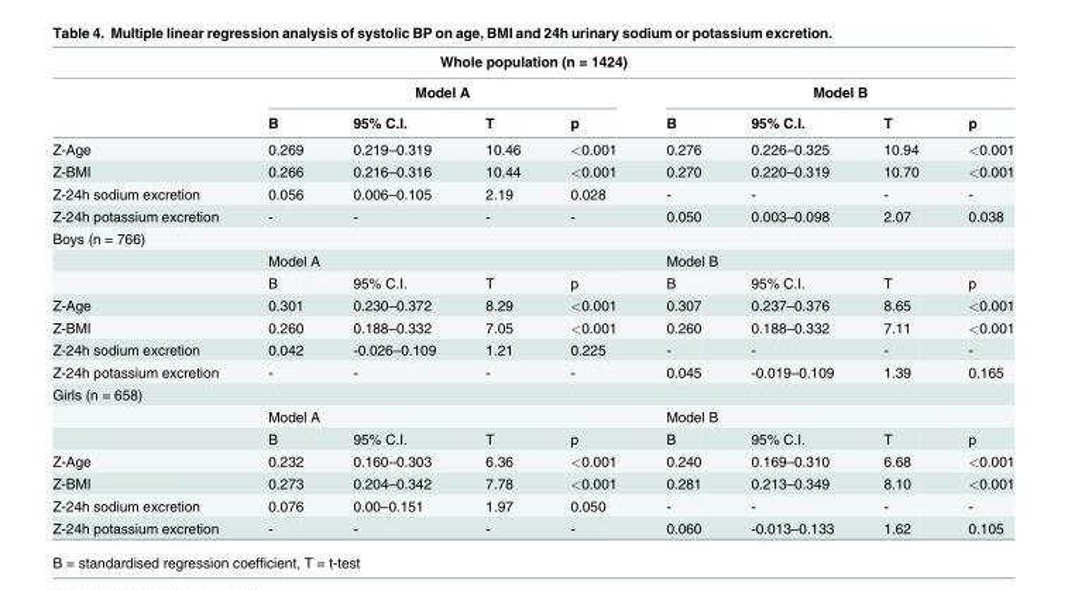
<table><thead><tr><td colspan="9">Whole population (n = 1424)</td></tr><tr><td rowspan="2"></td><td colspan="4">Model A</td><td colspan="4">Model B</td></tr><tr><td>B</td><td>95% C.I.</td><td>T</td><td>p</td><td>B</td><td>95% C.I.</td><td>T</td><td>p</td></tr></thead><tbody><tr><td>Z-Age</td><td>0.269</td><td>0.219–0.319</td><td>10.46</td><td>&lt;0.001</td><td>0.276</td><td>0.226–0.325</td><td>10.94</td><td>&lt;0.001</td></tr><tr><td>Z-BMI</td><td>0.266</td><td>0.216–0.316</td><td>10.44</td><td>&lt;0.001</td><td>0.270</td><td>0.220–0.319</td><td>10.70</td><td>&lt;0.001</td></tr><tr><td>Z-24h sodium excretion</td><td>0.056</td><td>0.006–0.105</td><td>2.19</td><td>0.028</td><td>-</td><td>-</td><td>-</td><td>-</td></tr><tr><td>Z-24h potassium excretion</td><td>-</td><td>-</td><td>-</td><td>-</td><td>0.050</td><td>0.003–0.098</td><td>2.07</td><td>0.038</td></tr><tr><td colspan="9">Boys (n = 766)</td></tr><tr><td></td><td colspan="4">Model A</td><td colspan="4">Model B</td></tr><tr><td></td><td>B</td><td>95% C.I.</td><td>T</td><td>p</td><td>B</td><td>95% C.I.</td><td>T</td><td>p</td></tr><tr><td>Z-Age</td><td>0.301</td><td>0.230–0.372</td><td>8.29</td><td>&lt;0.001</td><td>0.307</td><td>0.237–0.376</td><td>8.65</td><td>&lt;0.001</td></tr><tr><td>Z-BMI</td><td>0.260</td><td>0.188–0.332</td><td>7.05</td><td>&lt;0.001</td><td>0.260</td><td>0.188–0.332</td><td>7.11</td><td>&lt;0.001</td></tr><tr><td>Z-24h sodium excretion</td><td>0.042</td><td>-0.026–0.109</td><td>1.21</td><td>0.225</td><td>-</td><td>-</td><td>-</td><td>-</td></tr><tr><td>Z-24h potassium excretion</td><td>-</td><td>-</td><td>-</td><td>-</td><td>0.045</td><td>-0.019–0.109</td><td>1.39</td><td>0.165</td></tr><tr><td colspan="9">Girls (n = 658)</td></tr><tr><td></td><td colspan="4">Model A</td><td colspan="4">Model B</td></tr><tr><td></td><td>B</td><td>95% C.I.</td><td>T</td><td>p</td><td>B</td><td>95% C.I.</td><td>T</td><td>p</td></tr><tr><td>Z-Age</td><td>0.232</td><td>0.160–0.303</td><td>6.36</td><td>&lt;0.001</td><td>0.240</td><td>0.169–0.310</td><td>6.68</td><td>&lt;0.001</td></tr><tr><td>Z-BMI</td><td>0.273</td><td>0.204–0.342</td><td>7.78</td><td>&lt;0.001</td><td>0.281</td><td>0.213–0.349</td><td>8.10</td><td>&lt;0.001</td></tr><tr><td>Z-24h sodium excretion</td><td>0.076</td><td>0.00–0.151</td><td>1.97</td><td>0.050</td><td>-</td><td>-</td><td>-</td><td>-</td></tr><tr><td>Z-24h potassium excretion</td><td>-</td><td>-</td><td>-</td><td>-</td><td>0.060</td><td>-0.013–0.133</td><td>1.62</td><td>0.105</td></tr></tbody></table>